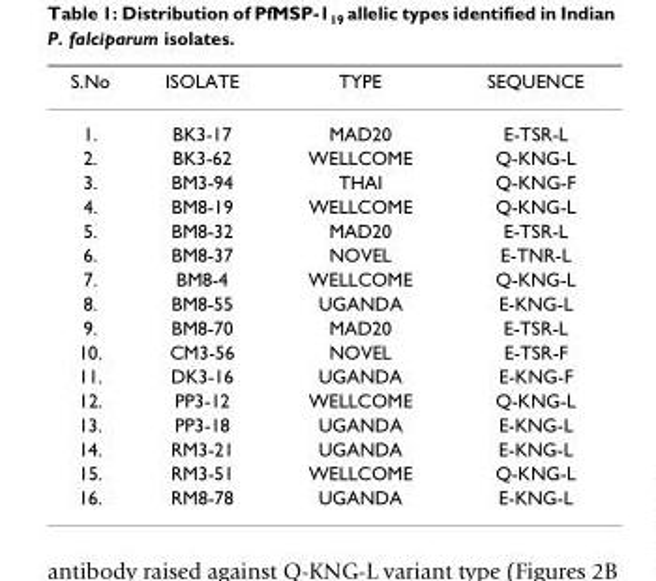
<table><thead><tr><td>S.No</td><td>ISOLATE</td><td>TYPE</td><td>SEQUENCE</td></tr></thead><tbody><tr><td>1.</td><td>BK3-17</td><td>MAD20</td><td>E-TSR-L</td></tr><tr><td>2.</td><td>BK3-62</td><td>WELLCOME</td><td>Q-KNG-L</td></tr><tr><td>3.</td><td>BM3-94</td><td>THAI</td><td>Q-KNG-F</td></tr><tr><td>4.</td><td>BM8-19</td><td>WELLCOME</td><td>Q-KNG-L</td></tr><tr><td>5.</td><td>BM8-32</td><td>MAD20</td><td>E-TSR-L</td></tr><tr><td>6.</td><td>BM8-37</td><td>NOVEL</td><td>E-TNR-L</td></tr><tr><td>7.</td><td>BM8-4</td><td>WELLCOME</td><td>Q-KNG-L</td></tr><tr><td>8.</td><td>BM8-55</td><td>UGANDA</td><td>E-KNG-L</td></tr><tr><td>9.</td><td>BM8-70</td><td>MAD20</td><td>E-TSR-L</td></tr><tr><td>10.</td><td>CM3-56</td><td>NOVEL</td><td>E-TSR-F</td></tr><tr><td>11.</td><td>DK3-16</td><td>UGANDA</td><td>E-KNG-F</td></tr><tr><td>12.</td><td>PP3-12</td><td>WELLCOME</td><td>Q-KNG-L</td></tr><tr><td>13.</td><td>PP3-18</td><td>UGANDA</td><td>E-KNG-L</td></tr><tr><td>14.</td><td>RM3-21</td><td>UGANDA</td><td>E-KNG-L</td></tr><tr><td>15.</td><td>RM3-51</td><td>WELLCOME</td><td>Q-KNG-L</td></tr><tr><td>16.</td><td>RM8-78</td><td>UGANDA</td><td>E-KNG-L</td></tr></tbody></table>